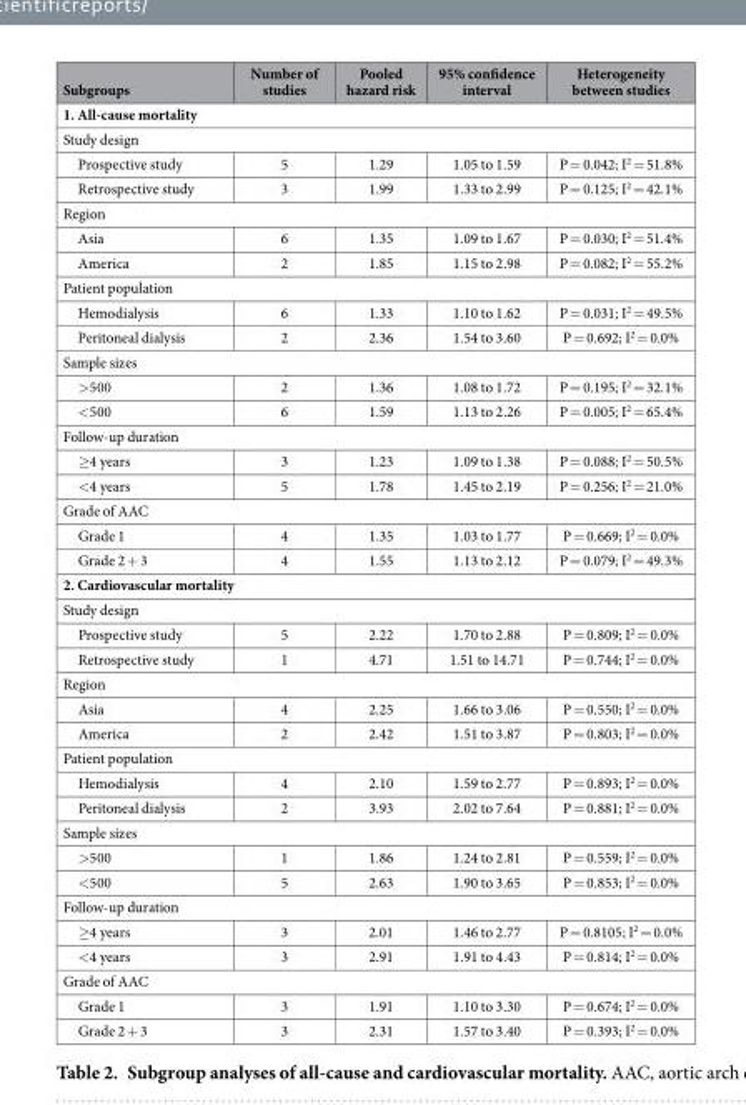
<table><thead><tr><td>Subgroups</td><td>Number of studies</td><td>Pooled hazard risk</td><td>95% confidence interval</td><td>Heterogeneity between studies</td></tr></thead><tbody><tr><td colspan="5">1. All-cause mortality</td></tr><tr><td colspan="5">Study design</td></tr><tr><td>Prospective study</td><td>5</td><td>1.29</td><td>1.05 to 1.59</td><td>P = 0.042; I<sup>2</sup> = 51.8%</td></tr><tr><td>Retrospective study</td><td>3</td><td>1.99</td><td>1.33 to 2.99</td><td>P = 0.125; I<sup>2</sup> = 42.1%</td></tr><tr><td colspan="5">Region</td></tr><tr><td>Asia</td><td>6</td><td>1.35</td><td>1.09 to 1.67</td><td>P = 0.030; I<sup>2</sup> = 51.4%</td></tr><tr><td>America</td><td>2</td><td>1.85</td><td>1.15 to 2.98</td><td>P = 0.082; I<sup>2</sup> = 55.2%</td></tr><tr><td colspan="5">Patient population</td></tr><tr><td>Hemodialysis</td><td>6</td><td>1.33</td><td>1.10 to 1.62</td><td>P = 0.031; I<sup>2</sup> = 49.5%</td></tr><tr><td>Peritoneal dialysis</td><td>2</td><td>2.36</td><td>1.54 to 3.60</td><td>P = 0.692; I<sup>2</sup> = 0.0%</td></tr><tr><td colspan="5">Sample sizes</td></tr><tr><td>&gt; 500</td><td>2</td><td>1.36</td><td>1.08 to 1.72</td><td>P = 0.195; I<sup>2</sup> = 32.1%</td></tr><tr><td>&lt; 500</td><td>6</td><td>1.59</td><td>1.13 to 2.26</td><td>P = 0.005; I<sup>2</sup> = 65.4%</td></tr><tr><td colspan="5">Follow-up duration</td></tr><tr><td>≥ 4 years</td><td>3</td><td>1.23</td><td>1.09 to 1.38</td><td>P = 0.088; I<sup>2</sup> = 50.5%</td></tr><tr><td>&lt; 4 years</td><td>5</td><td>1.78</td><td>1.45 to 2.19</td><td>P = 0.256; I<sup>2</sup> = 21.0%</td></tr><tr><td colspan="5">Grade of AAC</td></tr><tr><td>Grade 1</td><td>4</td><td>1.35</td><td>1.03 to 1.77</td><td>P = 0.669; I<sup>2</sup> = 0.0%</td></tr><tr><td>Grade 2 + 3</td><td>4</td><td>1.55</td><td>1.13 to 2.12</td><td>P = 0.079; I<sup>2</sup> = 49.3%</td></tr><tr><td colspan="5">2. Cardiovascular mortality</td></tr><tr><td colspan="5">Study design</td></tr><tr><td>Prospective study</td><td>5</td><td>2.22</td><td>1.70 to 2.88</td><td>P = 0.809; I<sup>2</sup> = 0.0%</td></tr><tr><td>Retrospective study</td><td>1</td><td>4.71</td><td>1.51 to 14.71</td><td>P = 0.744; I<sup>2</sup> = 0.0%</td></tr><tr><td colspan="5">Region</td></tr><tr><td>Asia</td><td>4</td><td>2.25</td><td>1.66 to 3.06</td><td>P = 0.550; I<sup>2</sup> = 0.0%</td></tr><tr><td>America</td><td>2</td><td>2.42</td><td>1.51 to 3.87</td><td>P = 0.803; I<sup>2</sup> = 0.0%</td></tr><tr><td colspan="5">Patient population</td></tr><tr><td>Hemodialysis</td><td>4</td><td>2.10</td><td>1.59 to 2.77</td><td>P = 0.893; I<sup>2</sup> = 0.0%</td></tr><tr><td>Peritoneal dialysis</td><td>2</td><td>3.93</td><td>2.02 to 7.64</td><td>P = 0.881; I<sup>2</sup> = 0.0%</td></tr><tr><td colspan="5">Sample sizes</td></tr><tr><td>&gt; 500</td><td>1</td><td>1.86</td><td>1.24 to 2.81</td><td>P = 0.559; I<sup>2</sup> = 0.0%</td></tr><tr><td>&lt; 500</td><td>5</td><td>2.63</td><td>1.90 to 3.65</td><td>P = 0.853; I<sup>2</sup> = 0.0%</td></tr><tr><td colspan="5">Follow-up duration</td></tr><tr><td>≥ 4 years</td><td>3</td><td>2.01</td><td>1.46 to 2.77</td><td>P = 0.8105; I<sup>2</sup> = 0.0%</td></tr><tr><td>&lt; 4 years</td><td>3</td><td>2.91</td><td>1.91 to 4.43</td><td>P = 0.814; I<sup>2</sup> = 0.0%</td></tr><tr><td colspan="5">Grade of AAC</td></tr><tr><td>Grade 1</td><td>3</td><td>1.91</td><td>1.10 to 3.30</td><td>P = 0.674; I<sup>2</sup> = 0.0%</td></tr><tr><td>Grade 2 + 3</td><td>3</td><td>2.31</td><td>1.57 to 3.40</td><td>P = 0.393; I<sup>2</sup> = 0.0%</td></tr></tbody></table>